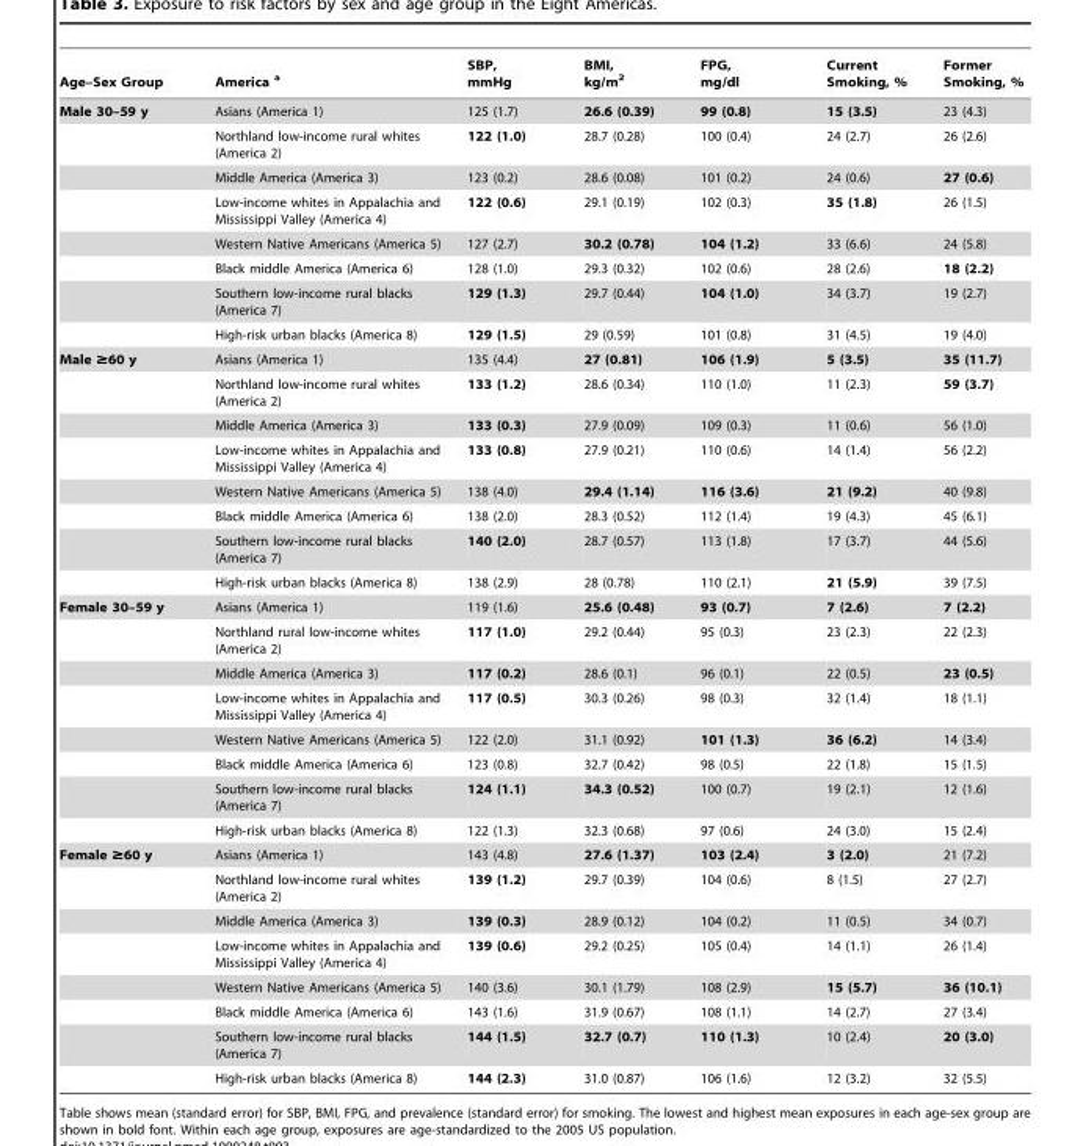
<table><thead><tr><td>Age–Sex Group</td><td>America <sup>a</sup></td><td>SBP, mmHg</td><td>BMI, kg/m<sup>2</sup></td><td>FPG, mg/dl</td><td>Current Smoking, %</td><td>Former Smoking, %</td></tr></thead><tbody><tr><td rowspan="8">Male 30–59 y</td><td>Asians (America 1)</td><td>125 (1.7)</td><td>26.6 (0.39)</td><td>99 (0.8)</td><td>15 (3.5)</td><td>23 (4.3)</td></tr><tr><td>Northland low-income rural whites (America 2)</td><td>122 (1.0)</td><td>28.7 (0.28)</td><td>100 (0.4)</td><td>24 (2.7)</td><td>26 (2.6)</td></tr><tr><td>Middle America (America 3)</td><td>123 (0.2)</td><td>28.6 (0.08)</td><td>101 (0.2)</td><td>24 (0.6)</td><td>27 (0.6)</td></tr><tr><td>Low-income whites in Appalachia and Mississippi Valley (America 4)</td><td>122 (0.6)</td><td>29.1 (0.19)</td><td>102 (0.3)</td><td>35 (1.8)</td><td>26 (1.5)</td></tr><tr><td>Western Native Americans (America 5)</td><td>127 (2.7)</td><td>30.2 (0.78)</td><td>104 (1.2)</td><td>33 (6.6)</td><td>24 (5.8)</td></tr><tr><td>Black middle America (America 6)</td><td>128 (1.0)</td><td>29.3 (0.32)</td><td>102 (0.6)</td><td>28 (2.6)</td><td>18 (2.2)</td></tr><tr><td>Southern low-income rural blacks (America 7)</td><td>129 (1.3)</td><td>29.7 (0.44)</td><td>104 (1.0)</td><td>34 (3.7)</td><td>19 (2.7)</td></tr><tr><td>High-risk urban blacks (America 8)</td><td>129 (1.5)</td><td>29 (0.59)</td><td>101 (0.8)</td><td>31 (4.5)</td><td>19 (4.0)</td></tr><tr><td rowspan="8">Male ≥60 y</td><td>Asians (America 1)</td><td>135 (4.4)</td><td>27 (0.81)</td><td>106 (1.9)</td><td>5 (3.5)</td><td>35 (11.7)</td></tr><tr><td>Northland low-income rural whites (America 2)</td><td>133 (1.2)</td><td>28.6 (0.34)</td><td>110 (1.0)</td><td>11 (2.3)</td><td>59 (3.7)</td></tr><tr><td>Middle America (America 3)</td><td>133 (0.3)</td><td>27.9 (0.09)</td><td>109 (0.3)</td><td>11 (0.6)</td><td>56 (1.0)</td></tr><tr><td>Low-income whites in Appalachia and Mississippi Valley (America 4)</td><td>133 (0.8)</td><td>27.9 (0.21)</td><td>110 (0.6)</td><td>14 (1.4)</td><td>56 (2.2)</td></tr><tr><td>Western Native Americans (America 5)</td><td>138 (4.0)</td><td>29.4 (1.14)</td><td>116 (3.6)</td><td>21 (9.2)</td><td>40 (9.8)</td></tr><tr><td>Black middle America (America 6)</td><td>138 (2.0)</td><td>28.3 (0.52)</td><td>112 (1.4)</td><td>19 (4.3)</td><td>45 (6.1)</td></tr><tr><td>Southern low-income rural blacks (America 7)</td><td>140 (2.0)</td><td>28.7 (0.57)</td><td>113 (1.8)</td><td>17 (3.7)</td><td>44 (5.6)</td></tr><tr><td>High-risk urban blacks (America 8)</td><td>138 (2.9)</td><td>28 (0.78)</td><td>110 (2.1)</td><td>21 (5.9)</td><td>39 (7.5)</td></tr><tr><td rowspan="8">Female 30–59 y</td><td>Asians (America 1)</td><td>119 (1.6)</td><td>25.6 (0.48)</td><td>93 (0.7)</td><td>7 (2.6)</td><td>7 (2.2)</td></tr><tr><td>Northland rural low-income whites (America 2)</td><td>117 (1.0)</td><td>29.2 (0.44)</td><td>95 (0.3)</td><td>23 (2.3)</td><td>22 (2.3)</td></tr><tr><td>Middle America (America 3)</td><td>117 (0.2)</td><td>28.6 (0.1)</td><td>96 (0.1)</td><td>22 (0.5)</td><td>23 (0.5)</td></tr><tr><td>Low-income whites in Appalachia and Mississippi Valley (America 4)</td><td>117 (0.5)</td><td>30.3 (0.26)</td><td>98 (0.3)</td><td>32 (1.4)</td><td>18 (1.1)</td></tr><tr><td>Western Native Americans (America 5)</td><td>122 (2.0)</td><td>31.1 (0.92)</td><td>101 (1.3)</td><td>36 (6.2)</td><td>14 (3.4)</td></tr><tr><td>Black middle America (America 6)</td><td>123 (0.8)</td><td>32.7 (0.42)</td><td>98 (0.5)</td><td>22 (1.8)</td><td>15 (1.5)</td></tr><tr><td>Southern low-income rural blacks (America 7)</td><td>124 (1.1)</td><td>34.3 (0.52)</td><td>100 (0.7)</td><td>19 (2.1)</td><td>12 (1.6)</td></tr><tr><td>High-risk urban blacks (America 8)</td><td>122 (1.3)</td><td>32.3 (0.68)</td><td>97 (0.6)</td><td>24 (3.0)</td><td>15 (2.4)</td></tr><tr><td rowspan="8">Female ≥60 y</td><td>Asians (America 1)</td><td>143 (4.8)</td><td>27.6 (1.37)</td><td>103 (2.4)</td><td>3 (2.0)</td><td>21 (7.2)</td></tr><tr><td>Northland low-income rural whites (America 2)</td><td>139 (1.2)</td><td>29.7 (0.39)</td><td>104 (0.6)</td><td>8 (1.5)</td><td>27 (2.7)</td></tr><tr><td>Middle America (America 3)</td><td>139 (0.3)</td><td>28.9 (0.12)</td><td>104 (0.2)</td><td>11 (0.5)</td><td>34 (0.7)</td></tr><tr><td>Low-income whites in Appalachia and Mississippi Valley (America 4)</td><td>139 (0.6)</td><td>29.2 (0.25)</td><td>105 (0.4)</td><td>14 (1.1)</td><td>26 (1.4)</td></tr><tr><td>Western Native Americans (America 5)</td><td>140 (3.6)</td><td>30.1 (1.79)</td><td>108 (2.9)</td><td>15 (5.7)</td><td>36 (10.1)</td></tr><tr><td>Black middle America (America 6)</td><td>143 (1.6)</td><td>31.9 (0.67)</td><td>108 (1.1)</td><td>14 (2.7)</td><td>27 (3.4)</td></tr><tr><td>Southern low-income rural blacks (America 7)</td><td>144 (1.5)</td><td>32.7 (0.7)</td><td>110 (1.3)</td><td>10 (2.4)</td><td>20 (3.0)</td></tr><tr><td>High-risk urban blacks (America 8)</td><td>144 (2.3)</td><td>31.0 (0.87)</td><td>106 (1.6)</td><td>12 (3.2)</td><td>32 (5.5)</td></tr></tbody></table>